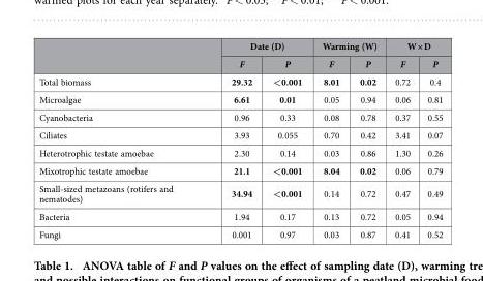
<table><thead><tr><td rowspan="2"></td><td colspan="2">Date (D)</td><td colspan="2">Warming (W)</td><td colspan="2">W × D</td></tr><tr><td>F</td><td>P</td><td>F</td><td>P</td><td>F</td><td>P</td></tr></thead><tbody><tr><td>Total biomass</td><td>29.32</td><td>&lt;0.001</td><td>8.01</td><td>0.02</td><td>0.72</td><td>0.4</td></tr><tr><td>Microalgae</td><td>6.61</td><td>0.01</td><td>0.05</td><td>0.94</td><td>0.06</td><td>0.81</td></tr><tr><td>Cyanobacteria</td><td>0.96</td><td>0.33</td><td>0.08</td><td>0.78</td><td>0.37</td><td>0.55</td></tr><tr><td>Ciliates</td><td>3.93</td><td>0.055</td><td>0.70</td><td>0.42</td><td>3.41</td><td>0.07</td></tr><tr><td>Heterotrophic testate amoebae</td><td>2.30</td><td>0.14</td><td>0.03</td><td>0.86</td><td>1.30</td><td>0.26</td></tr><tr><td>Mixotrophic testate amoebae</td><td>21.1</td><td>&lt;0.001</td><td>8.04</td><td>0.02</td><td>0.06</td><td>0.79</td></tr><tr><td>Small-sized metazoans (rotifers and nematodes)</td><td>34.94</td><td>&lt;0.001</td><td>0.14</td><td>0.72</td><td>0.47</td><td>0.49</td></tr><tr><td>Bacteria</td><td>1.94</td><td>0.17</td><td>0.13</td><td>0.72</td><td>0.05</td><td>0.94</td></tr><tr><td>Fungi</td><td>0.001</td><td>0.97</td><td>0.03</td><td>0.87</td><td>0.41</td><td>0.52</td></tr></tbody></table>